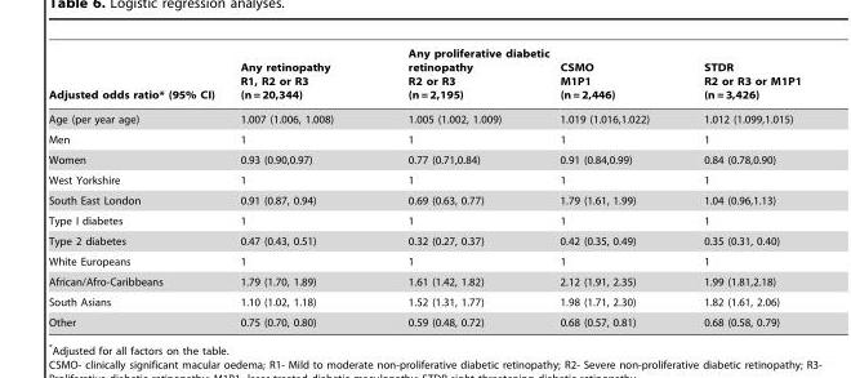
<table><thead><tr><td>Adjusted odds ratio* (95% CI)</td><td>Any retinopathy R1, R2 or R3 (n = 20,344)</td><td>Any proliferative diabetic retinopathy R2 or R3 (n = 2,195)</td><td>CSMO M1P1 (n = 2,446)</td><td>STDR R2 or R3 or M1P1 (n = 3,426)</td></tr></thead><tbody><tr><td>Age (per year age)</td><td>1.007 (1.006, 1.008)</td><td>1.005 (1.002, 1.009)</td><td>1.019 (1.016,1.022)</td><td>1.012 (1.099,1.015)</td></tr><tr><td>Men</td><td>1</td><td>1</td><td>1</td><td>1</td></tr><tr><td>Women</td><td>0.93 (0.90,0.97)</td><td>0.77 (0.71,0.84)</td><td>0.91 (0.84,0.99)</td><td>0.84 (0.78,0.90)</td></tr><tr><td>West Yorkshire</td><td>1</td><td>1</td><td>1</td><td>1</td></tr><tr><td>South East London</td><td>0.91 (0.87, 0.94)</td><td>0.69 (0.63, 0.77)</td><td>1.79 (1.61, 1.99)</td><td>1.04 (0.96,1.13)</td></tr><tr><td>Type I diabetes</td><td>1</td><td>1</td><td>1</td><td>1</td></tr><tr><td>Type 2 diabetes</td><td>0.47 (0.43, 0.51)</td><td>0.32 (0.27, 0.37)</td><td>0.42 (0.35, 0.49)</td><td>0.35 (0.31, 0.40)</td></tr><tr><td>White Europeans</td><td>1</td><td>1</td><td>1</td><td>1</td></tr><tr><td>African/Afro-Caribbeans</td><td>1.79 (1.70, 1.89)</td><td>1.61 (1.42, 1.82)</td><td>2.12 (1.91, 2.35)</td><td>1.99 (1.81,2.18)</td></tr><tr><td>South Asians</td><td>1.10 (1.02, 1.18)</td><td>1.52 (1.31, 1.77)</td><td>1.98 (1.71, 2.30)</td><td>1.82 (1.61, 2.06)</td></tr><tr><td>Other</td><td>0.75 (0.70, 0.80)</td><td>0.59 (0.48, 0.72)</td><td>0.68 (0.57, 0.81)</td><td>0.68 (0.58, 0.79)</td></tr></tbody></table>